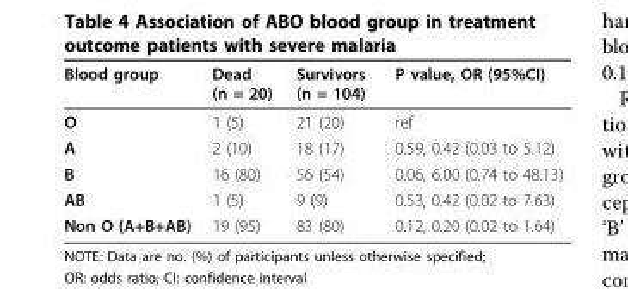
<table><thead><tr><td>Blood group</td><td>Dead (n = 20)</td><td>Survivors (n = 104)</td><td>P value, OR (95%CI)</td></tr></thead><tbody><tr><td>O</td><td>1 (5)</td><td>21 (20)</td><td>ref</td></tr><tr><td>A</td><td>2 (10)</td><td>18 (17)</td><td>0.59, 0.42 (0.03 to 5.12)</td></tr><tr><td>B</td><td>16 (80)</td><td>56 (54)</td><td>0.06, 6.00 (0.74 to 48.13)</td></tr><tr><td>AB</td><td>1 (5)</td><td>9 (9)</td><td>0.53, 0.42 (0.02 to 7.63)</td></tr><tr><td>Non O (A+B+AB)</td><td>19 (95)</td><td>83 (80)</td><td>0.12, 0.20 (0.02 to 1.64)</td></tr></tbody></table>